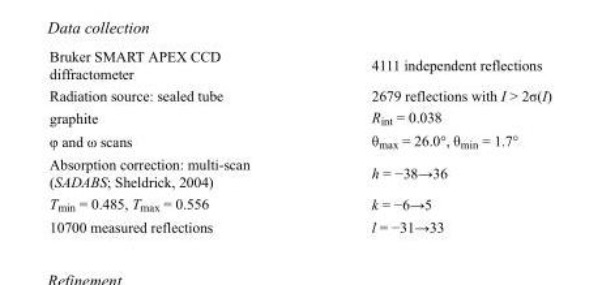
<table><tbody><tr><td>Bruker SMART APEX CCD diffractometer</td><td>4111 independent reflections</td></tr><tr><td>Radiation source: sealed tube</td><td>2679 reflections with I &gt; 2σ(I)</td></tr><tr><td>graphite</td><td>R<sub>int</sub> = 0.038</td></tr><tr><td>φ and ω scans</td><td>θ<sub>max</sub> = 26.0°, θ<sub>min</sub> = 1.7°</td></tr><tr><td>Absorption correction: multi-scan (SADABS; Sheldrick, 2004)</td><td>h = −38→36</td></tr><tr><td>T<sub>min</sub> = 0.485, T<sub>max</sub> = 0.556</td><td>k = −6→5</td></tr><tr><td>10700 measured reflections</td><td>l = −31→33</td></tr></tbody></table>